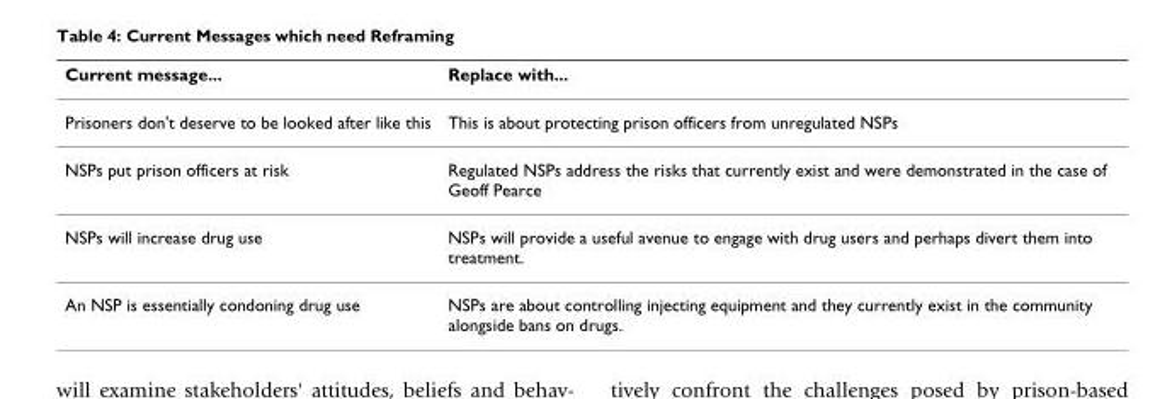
<table><thead><tr><td>Current message...</td><td>Replace with...</td></tr></thead><tbody><tr><td>Prisoners don&#x27;t deserve to be looked after like this</td><td>This is about protecting prison officers from unregulated NSPs</td></tr><tr><td>NSPs put prison officers at risk</td><td>Regulated NSPs address the risks that currently exist and were demonstrated in the case of Geoff Pearce</td></tr><tr><td>NSPs will increase drug use</td><td>NSPs will provide a useful avenue to engage with drug users and perhaps divert them into treatment.</td></tr><tr><td>An NSP is essentially condoning drug use</td><td>NSPs are about controlling injecting equipment and they currently exist in the community alongside bans on drugs.</td></tr></tbody></table>